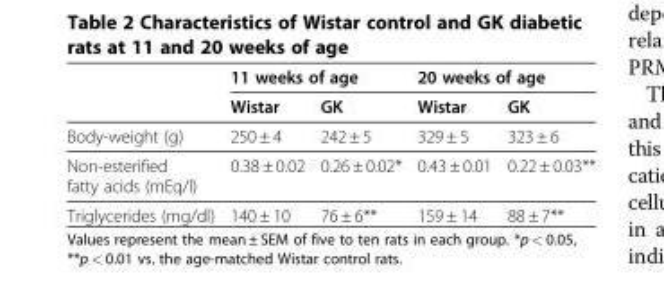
<table><thead><tr><td rowspan="2"></td><td colspan="2">11 weeks of age</td><td colspan="2">20 weeks of age</td></tr><tr><td>Wistar</td><td>GK</td><td>Wistar</td><td>GK</td></tr></thead><tbody><tr><td>Body-weight (g)</td><td>250 ± 4</td><td>242 ± 5</td><td>329 ± 5</td><td>323 ± 6</td></tr><tr><td>Non-esterified fatty acids (mEq/l)</td><td>0.38 ± 0.02</td><td>0.26 ± 0.02*</td><td>0.43 ± 0.01</td><td>0.22 ± 0.03**</td></tr><tr><td>Triglycerides (mg/dl)</td><td>140 ± 10</td><td>76 ± 6**</td><td>159 ± 14</td><td>88 ± 7**</td></tr></tbody></table>